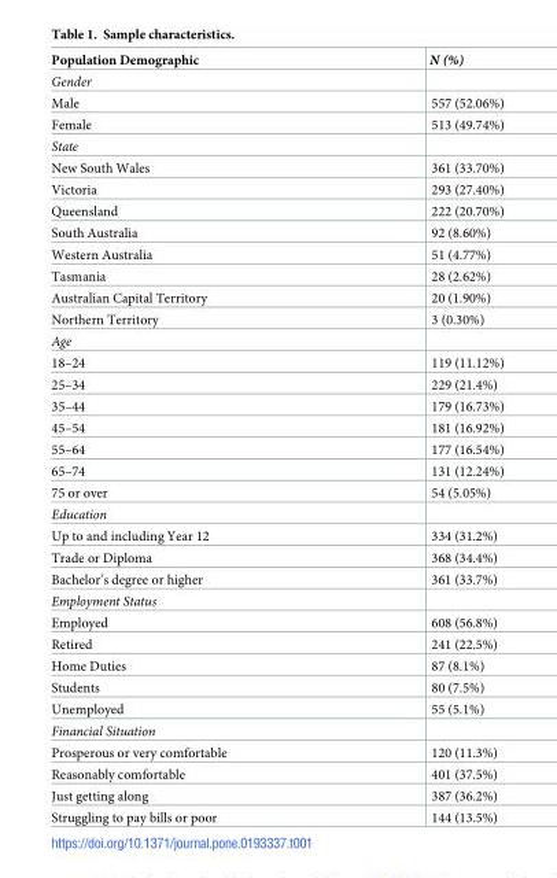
<table><thead><tr><td>Population Demographic</td><td>N (%)</td></tr></thead><tbody><tr><td colspan="2">Gender</td></tr><tr><td>Male</td><td>557 (52.06%)</td></tr><tr><td>Female</td><td>513 (49.74%)</td></tr><tr><td colspan="2">State</td></tr><tr><td>New South Wales</td><td>361 (33.70%)</td></tr><tr><td>Victoria</td><td>293 (27.40%)</td></tr><tr><td>Queensland</td><td>222 (20.70%)</td></tr><tr><td>South Australia</td><td>92 (8.60%)</td></tr><tr><td>Western Australia</td><td>51 (4.77%)</td></tr><tr><td>Tasmania</td><td>28 (2.62%)</td></tr><tr><td>Australian Capital Territory</td><td>20 (1.90%)</td></tr><tr><td>Northern Territory</td><td>3 (0.30%)</td></tr><tr><td colspan="2">Age</td></tr><tr><td>18–24</td><td>119 (11.12%)</td></tr><tr><td>25–34</td><td>229 (21.4%)</td></tr><tr><td>35–44</td><td>179 (16.73%)</td></tr><tr><td>45–54</td><td>181 (16.92%)</td></tr><tr><td>55–64</td><td>177 (16.54%)</td></tr><tr><td>65–74</td><td>131 (12.24%)</td></tr><tr><td>75 or over</td><td>54 (5.05%)</td></tr><tr><td colspan="2">Education</td></tr><tr><td>Up to and including Year 12</td><td>334 (31.2%)</td></tr><tr><td>Trade or Diploma</td><td>368 (34.4%)</td></tr><tr><td>Bachelor’s degree or higher</td><td>361 (33.7%)</td></tr><tr><td colspan="2">Employment Status</td></tr><tr><td>Employed</td><td>608 (56.8%)</td></tr><tr><td>Retired</td><td>241 (22.5%)</td></tr><tr><td>Home Duties</td><td>87 (8.1%)</td></tr><tr><td>Students</td><td>80 (7.5%)</td></tr><tr><td>Unemployed</td><td>55 (5.1%)</td></tr><tr><td colspan="2">Financial Situation</td></tr><tr><td>Prosperous or very comfortable</td><td>120 (11.3%)</td></tr><tr><td>Reasonably comfortable</td><td>401 (37.5%)</td></tr><tr><td>Just getting along</td><td>387 (36.2%)</td></tr><tr><td>Struggling to pay bills or poor</td><td>144 (13.5%)</td></tr></tbody></table>